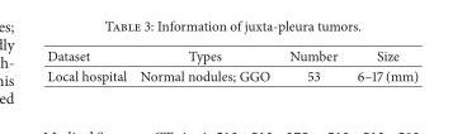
<table><thead><tr><td>Dataset</td><td>Types</td><td>Number</td><td>Size</td></tr></thead><tbody><tr><td>Local hospital</td><td>Normal nodules; GGO</td><td>53</td><td>6–17 (mm)</td></tr></tbody></table>